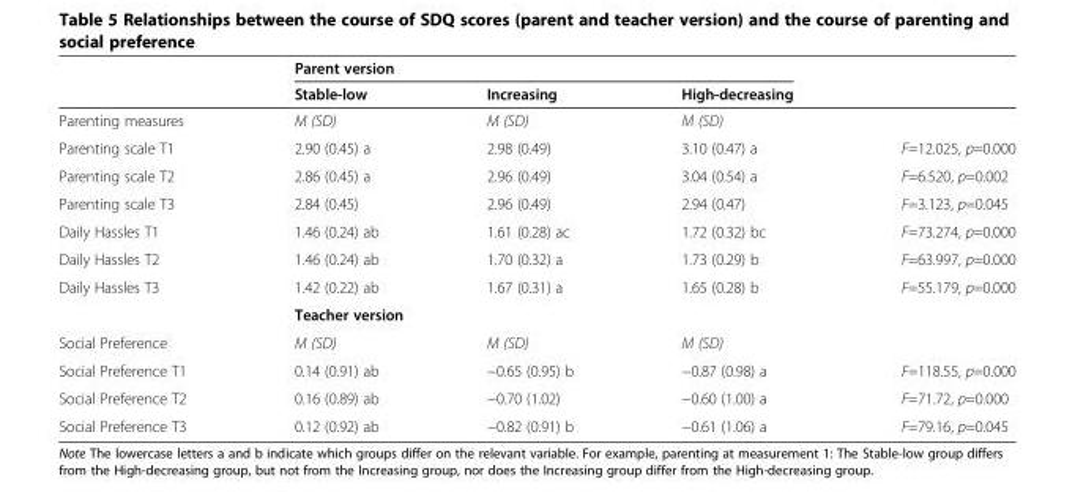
<table><thead><tr><td rowspan="2"></td><td colspan="3">Parent version</td><td rowspan="2"></td></tr><tr><td>Stable-low</td><td>Increasing</td><td>High-decreasing</td></tr></thead><tbody><tr><td>Parenting measures</td><td>M (SD)</td><td>M (SD)</td><td>M (SD)</td><td></td></tr><tr><td>Parenting scale T1</td><td>2.90 (0.45) a</td><td>2.98 (0.49)</td><td>3.10 (0.47) a</td><td>F=12.025, p=0.000</td></tr><tr><td>Parenting scale T2</td><td>2.86 (0.45) a</td><td>2.96 (0.49)</td><td>3.04 (0.54) a</td><td>F=6.520, p=0.002</td></tr><tr><td>Parenting scale T3</td><td>2.84 (0.45)</td><td>2.96 (0.49)</td><td>2.94 (0.47)</td><td>F=3.123, p=0.045</td></tr><tr><td>Daily Hassles T1</td><td>1.46 (0.24) ab</td><td>1.61 (0.28) ac</td><td>1.72 (0.32) bc</td><td>F=73.274, p=0.000</td></tr><tr><td>Daily Hassles T2</td><td>1.46 (0.24) ab</td><td>1.70 (0.32) a</td><td>1.73 (0.29) b</td><td>F=63.997, p=0.000</td></tr><tr><td rowspan="2">Daily Hassles T3</td><td>1.42 (0.22) ab</td><td>1.67 (0.31) a</td><td>1.65 (0.28) b</td><td>F=55.179, p=0.000</td></tr><tr><td colspan="3">Teacher version</td><td></td></tr><tr><td>Social Preference</td><td>M (SD)</td><td>M (SD)</td><td>M (SD)</td><td></td></tr><tr><td>Social Preference T1</td><td>0.14 (0.91) ab</td><td>−0.65 (0.95) b</td><td>−0.87 (0.98) a</td><td>F=118.55, p=0.000</td></tr><tr><td>Social Preference T2</td><td>0.16 (0.89) ab</td><td>−0.70 (1.02)</td><td>−0.60 (1.00) a</td><td>F=71.72, p=0.000</td></tr><tr><td>Social Preference T3</td><td>0.12 (0.92) ab</td><td>−0.82 (0.91) b</td><td>−0.61 (1.06) a</td><td>F=79.16, p=0.045</td></tr></tbody></table>